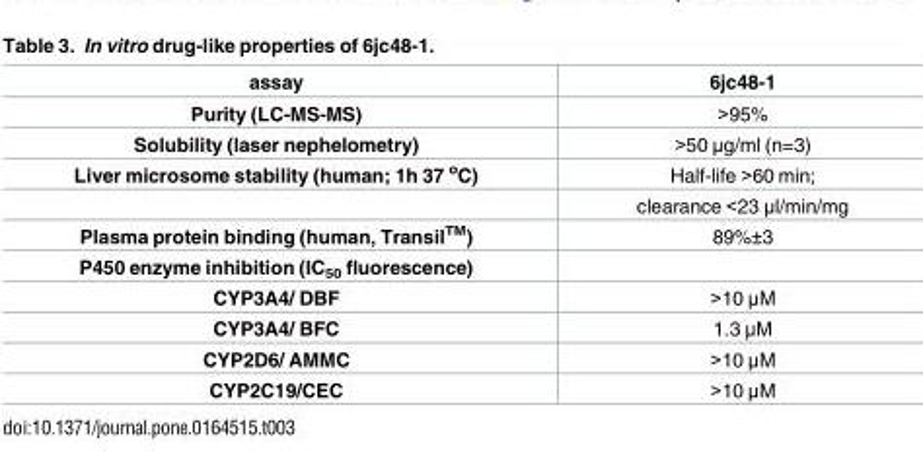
<table><thead><tr><td>assay</td><td>6jc48-1</td></tr></thead><tbody><tr><td>Purity (LC-MS-MS)</td><td>&gt;95%</td></tr><tr><td>Solubility (laser nephelometry)</td><td>&gt;50 μg/ml (n=3)</td></tr><tr><td rowspan="2">Liver microsome stability (human; 1h 37 <sup>o</sup>C)</td><td>Half-life &gt;60 min;</td></tr><tr><td>clearance &lt;23 μl/min/mg</td></tr><tr><td>Plasma protein binding (human, Transil<sup>TM</sup>)</td><td>89%±3</td></tr><tr><td colspan="2">P450 enzyme inhibition (IC<sub>50</sub> fluorescence)</td></tr><tr><td>CYP3A4/ DBF</td><td>&gt;10 μM</td></tr><tr><td>CYP3A4/ BFC</td><td>1.3 μM</td></tr><tr><td>CYP2D6/ AMMC</td><td>&gt;10 μM</td></tr><tr><td>CYP2C19/CEC</td><td>&gt;10 μM</td></tr></tbody></table>